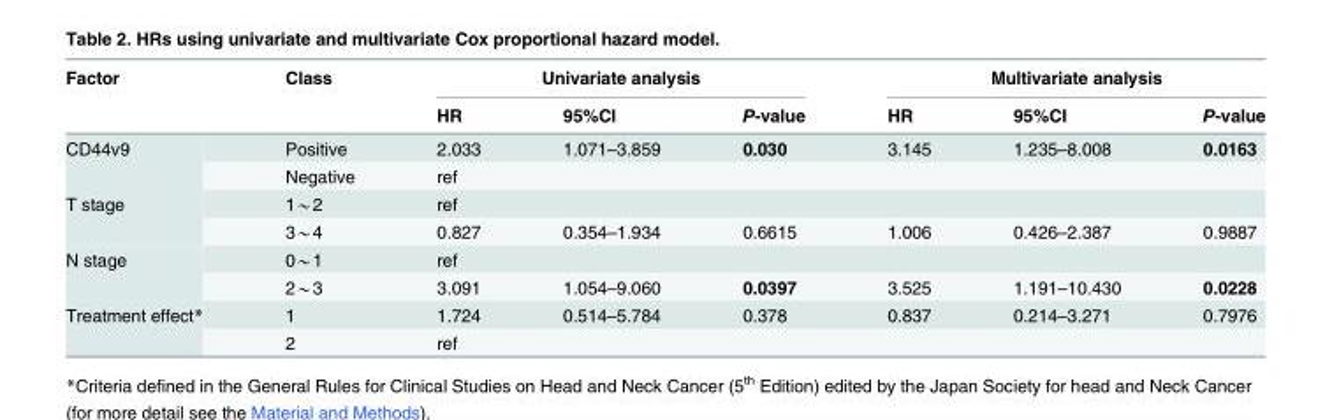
<table><thead><tr><td rowspan="2">Factor</td><td rowspan="2">Class</td><td colspan="3">Univariate analysis</td><td colspan="3">Multivariate analysis</td></tr><tr><td>HR</td><td>95%CI</td><td>P-value</td><td>HR</td><td>95%CI</td><td>P-value</td></tr></thead><tbody><tr><td rowspan="2">CD44v9</td><td>Positive</td><td>2.033</td><td>1.071–3.859</td><td>0.030</td><td>3.145</td><td>1.235–8.008</td><td>0.0163</td></tr><tr><td>Negative</td><td>ref</td><td></td><td></td><td></td><td></td><td></td></tr><tr><td rowspan="2">T stage</td><td>1*2</td><td>ref</td><td></td><td></td><td></td><td></td><td></td></tr><tr><td>3*4</td><td>0.827</td><td>0.354–1.934</td><td>0.6615</td><td>1.006</td><td>0.426–2.387</td><td>0.9887</td></tr><tr><td rowspan="2">N stage</td><td>0*1</td><td>ref</td><td></td><td></td><td></td><td></td><td></td></tr><tr><td>2*3</td><td>3.091</td><td>1.054–9.060</td><td>0.0397</td><td>3.525</td><td>1.191–10.430</td><td>0.0228</td></tr><tr><td rowspan="2">Treatment effect*</td><td>1</td><td>1.724</td><td>0.514–5.784</td><td>0.378</td><td>0.837</td><td>0.214–3.271</td><td>0.7976</td></tr><tr><td>2</td><td>ref</td><td></td><td></td><td></td><td></td><td></td></tr></tbody></table>